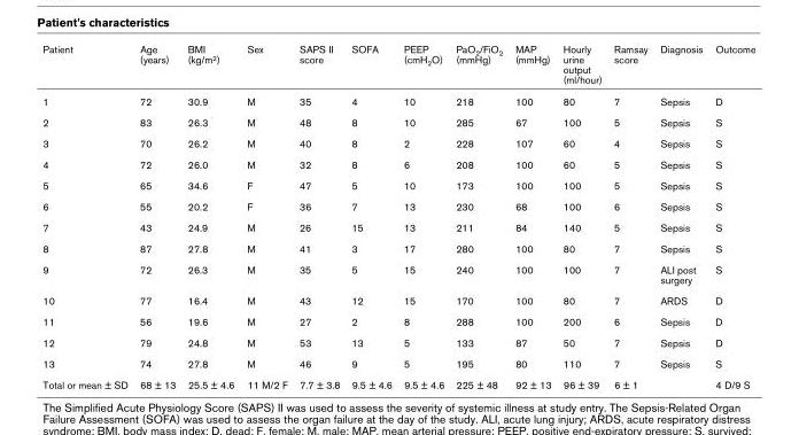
<table><thead><tr><td>Patient</td><td>Age (years)</td><td>BMI (kg/m<sup>2</sup>)</td><td>Sex</td><td>SAPS II score</td><td>SOFA</td><td>PEEP (cmH<sub>2</sub>O)</td><td>PaO<sub>2</sub>/FiO<sub>2</sub> (mmHg)</td><td>MAP (mmHg)</td><td>Hourly urine output (ml/hour)</td><td>Ramsay score</td><td>Diagnosis</td><td>Outcome</td></tr></thead><tbody><tr><td>1</td><td>72</td><td>30.9</td><td>M</td><td>35</td><td>4</td><td>10</td><td>218</td><td>100</td><td>80</td><td>7</td><td>Sepsis</td><td>D</td></tr><tr><td>2</td><td>83</td><td>26.3</td><td>M</td><td>48</td><td>8</td><td>10</td><td>285</td><td>67</td><td>100</td><td>5</td><td>Sepsis</td><td>S</td></tr><tr><td>3</td><td>70</td><td>26.2</td><td>M</td><td>40</td><td>8</td><td>2</td><td>228</td><td>107</td><td>60</td><td>4</td><td>Sepsis</td><td>S</td></tr><tr><td>4</td><td>72</td><td>26.0</td><td>M</td><td>32</td><td>8</td><td>6</td><td>208</td><td>100</td><td>60</td><td>5</td><td>Sepsis</td><td>S</td></tr><tr><td>5</td><td>65</td><td>34.6</td><td>F</td><td>47</td><td>5</td><td>10</td><td>173</td><td>100</td><td>100</td><td>5</td><td>Sepsis</td><td>S</td></tr><tr><td>6</td><td>55</td><td>20.2</td><td>F</td><td>36</td><td>7</td><td>13</td><td>230</td><td>68</td><td>100</td><td>6</td><td>Sepsis</td><td>S</td></tr><tr><td>7</td><td>43</td><td>24.9</td><td>M</td><td>26</td><td>15</td><td>13</td><td>211</td><td>84</td><td>140</td><td>5</td><td>Sepsis</td><td>S</td></tr><tr><td>8</td><td>87</td><td>27.8</td><td>M</td><td>41</td><td>3</td><td>17</td><td>280</td><td>100</td><td>80</td><td>7</td><td>Sepsis</td><td>S</td></tr><tr><td>9</td><td>72</td><td>26.3</td><td>M</td><td>35</td><td>5</td><td>15</td><td>240</td><td>100</td><td>100</td><td>7</td><td>ALI post surgery</td><td>S</td></tr><tr><td>10</td><td>77</td><td>16.4</td><td>M</td><td>43</td><td>12</td><td>15</td><td>170</td><td>100</td><td>80</td><td>7</td><td>ARDS</td><td>D</td></tr><tr><td>11</td><td>56</td><td>19.6</td><td>M</td><td>27</td><td>2</td><td>8</td><td>288</td><td>100</td><td>200</td><td>6</td><td>Sepsis</td><td>D</td></tr><tr><td>12</td><td>79</td><td>24.8</td><td>M</td><td>53</td><td>13</td><td>5</td><td>133</td><td>87</td><td>50</td><td>7</td><td>Sepsis</td><td>D</td></tr><tr><td>13</td><td>74</td><td>27.8</td><td>M</td><td>46</td><td>9</td><td>5</td><td>195</td><td>80</td><td>110</td><td>7</td><td>Sepsis</td><td>S</td></tr><tr><td>Total or mean ± SD</td><td>68 ± 13</td><td>25.5 ± 4.6</td><td>11 M/2 F</td><td>7.7 ± 3.8</td><td>9.5 ± 4.6</td><td>9.5 ± 4.6</td><td>225 ± 48</td><td>92 ± 13</td><td>96 ± 39</td><td>6 ± 1</td><td></td><td>4 D/9 S</td></tr></tbody></table>